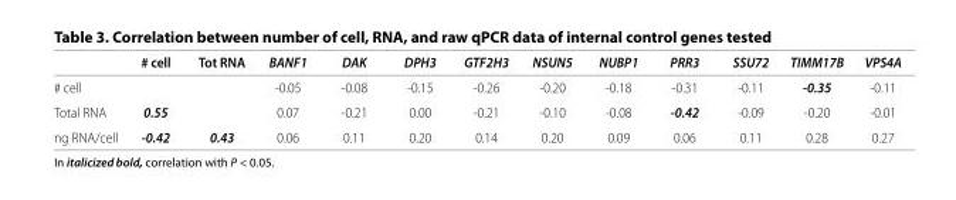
<table><thead><tr><td></td><td># cell</td><td>Tot RNA</td><td>BANF1</td><td>DAK</td><td>DPH3</td><td>GTF2H3</td><td>NSUN5</td><td>NUBP1</td><td>PRR3</td><td>SSU72</td><td>TIMM17B</td><td>VPS4A</td></tr></thead><tbody><tr><td># cell</td><td></td><td></td><td>-0.05</td><td>-0.08</td><td>-0.15</td><td>-0.26</td><td>-0.20</td><td>-0.18</td><td>-0.31</td><td>-0.11</td><td>-0.35</td><td>-0.11</td></tr><tr><td>Total RNA</td><td>0.55</td><td></td><td>0.07</td><td>-0.21</td><td>0.00</td><td>-0.21</td><td>-0.10</td><td>-0.08</td><td>-0.42</td><td>-0.09</td><td>-0.20</td><td>-0.01</td></tr><tr><td>ng RNA/cell</td><td>-0.42</td><td>0.43</td><td>0.06</td><td>0.11</td><td>0.20</td><td>0.14</td><td>0.20</td><td>0.09</td><td>0.06</td><td>0.11</td><td>0.28</td><td>0.27</td></tr></tbody></table>